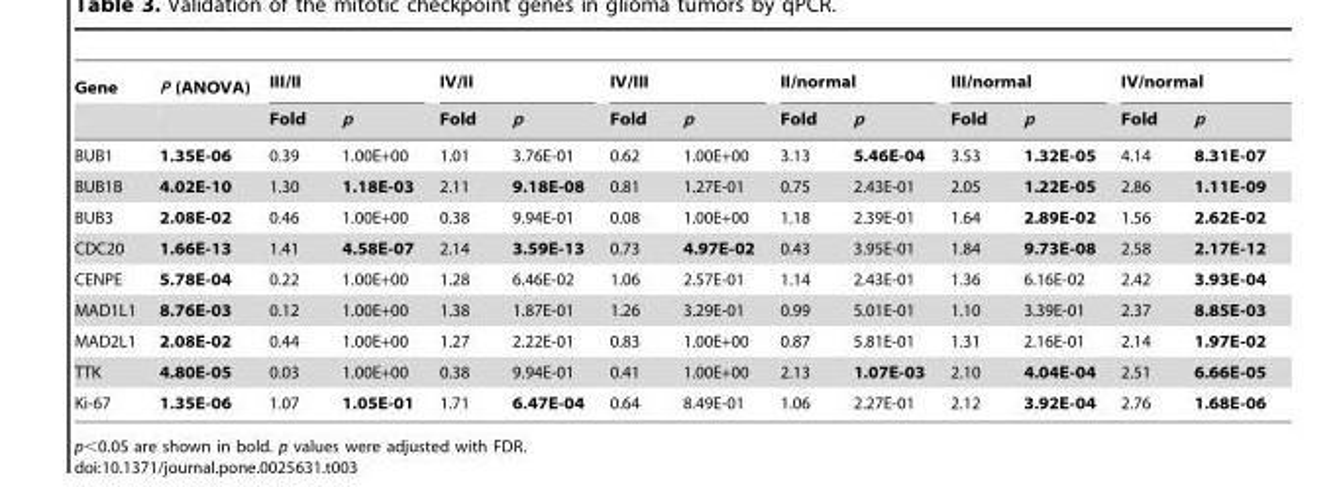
<table><thead><tr><td rowspan="2">Gene</td><td rowspan="2">P (ANOVA)</td><td colspan="2">III/II</td><td colspan="2">IV/II</td><td colspan="2">IV/III</td><td colspan="2">II/normal</td><td colspan="2">III/normal</td><td colspan="2">IV/normal</td></tr><tr><td>Fold</td><td>p</td><td>Fold</td><td>p</td><td>Fold</td><td>p</td><td>Fold</td><td>p</td><td>Fold</td><td>p</td><td>Fold</td><td>p</td></tr></thead><tbody><tr><td>BUB1</td><td>1.35E-06</td><td>0.39</td><td>1.00E+00</td><td>1.01</td><td>3.76E-01</td><td>0.62</td><td>1.00E+00</td><td>3.13</td><td>5.46E-04</td><td>3.53</td><td>1.32E-05</td><td>4.14</td><td>8.31E-07</td></tr><tr><td>BUB1B</td><td>4.02E-10</td><td>1.30</td><td>1.18E-03</td><td>2.11</td><td>9.18E-08</td><td>0.81</td><td>1.27E-01</td><td>0.75</td><td>2.43E-01</td><td>2.05</td><td>1.22E-05</td><td>2.86</td><td>1.11E-09</td></tr><tr><td>BUB3</td><td>2.08E-02</td><td>0.46</td><td>1.00E+00</td><td>0.38</td><td>9.94E-01</td><td>0.08</td><td>1.00E+00</td><td>1.18</td><td>2.39E-01</td><td>1.64</td><td>2.89E-02</td><td>1.56</td><td>2.62E-02</td></tr><tr><td>CDC20</td><td>1.66E-13</td><td>1.41</td><td>4.58E-07</td><td>2.14</td><td>3.59E-13</td><td>0.73</td><td>4.97E-02</td><td>0.43</td><td>3.95E-01</td><td>1.84</td><td>9.73E-08</td><td>2.58</td><td>2.17E-12</td></tr><tr><td>CENPE</td><td>5.78E-04</td><td>0.22</td><td>1.00E+00</td><td>1.28</td><td>6.46E-02</td><td>1.06</td><td>2.57E-01</td><td>1.14</td><td>2.43E-01</td><td>1.36</td><td>6.16E-02</td><td>2.42</td><td>3.93E-04</td></tr><tr><td>MAD1L1</td><td>8.76E-03</td><td>0.12</td><td>1.00E+00</td><td>1.38</td><td>1.87E-01</td><td>1.26</td><td>3.29E-01</td><td>0.99</td><td>5.01E-01</td><td>1.10</td><td>3.39E-01</td><td>2.37</td><td>8.85E-03</td></tr><tr><td>MAD2L1</td><td>2.08E-02</td><td>0.44</td><td>1.00E+00</td><td>1.27</td><td>2.22E-01</td><td>0.83</td><td>1.00E+00</td><td>0.87</td><td>5.81E-01</td><td>1.31</td><td>2.16E-01</td><td>2.14</td><td>1.97E-02</td></tr><tr><td>TTK</td><td>4.80E-05</td><td>0.03</td><td>1.00E+00</td><td>0.38</td><td>9.94E-01</td><td>0.41</td><td>1.00E+00</td><td>2.13</td><td>1.07E-03</td><td>2.10</td><td>4.04E-04</td><td>2.51</td><td>6.66E-05</td></tr><tr><td>Ki-67</td><td>1.35E-06</td><td>1.07</td><td>1.05E-01</td><td>1.71</td><td>6.47E-04</td><td>0.64</td><td>8.49E-01</td><td>1.06</td><td>2.27E-01</td><td>2.12</td><td>3.92E-04</td><td>2.76</td><td>1.68E-06</td></tr></tbody></table>